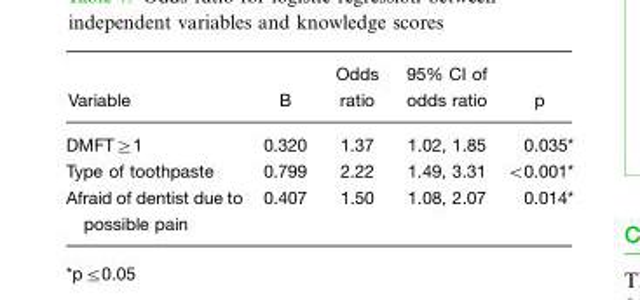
<table><thead><tr><td>Variable</td><td>B</td><td>Odds ratio</td><td>95% CI of odds ratio</td><td>p</td></tr></thead><tbody><tr><td>DMFT≥1</td><td>0.320</td><td>1.37</td><td>1.02, 1.85</td><td>0.035*</td></tr><tr><td>Type of toothpaste</td><td>0.799</td><td>2.22</td><td>1.49, 3.31</td><td>&lt;0.001*</td></tr><tr><td>Afraid of dentist due to possible pain</td><td>0.407</td><td>1.50</td><td>1.08, 2.07</td><td>0.014*</td></tr></tbody></table>